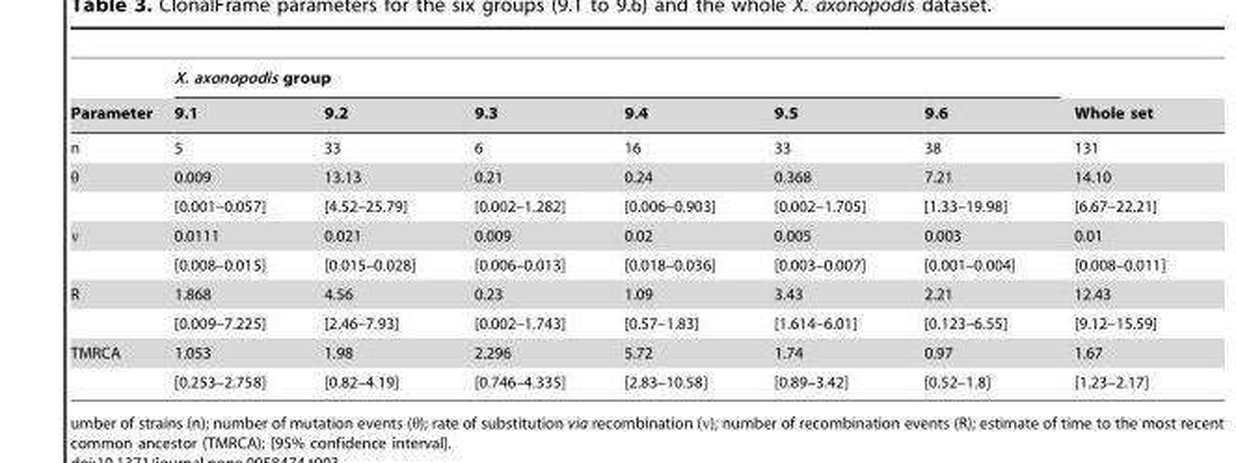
<table><thead><tr><td rowspan="2">Parameter</td><td colspan="6">X. axonopodis group</td><td rowspan="2">Whole set</td></tr><tr><td>9.1</td><td>9.2</td><td>9.3</td><td>9.4</td><td>9.5</td><td>9.6</td></tr></thead><tbody><tr><td>n</td><td>5</td><td>33</td><td>6</td><td>16</td><td>33</td><td>38</td><td>131</td></tr><tr><td rowspan="2">θ</td><td>0.009</td><td>13.13</td><td>0.21</td><td>0.24</td><td>0.368</td><td>7.21</td><td>14.10</td></tr><tr><td>[0.001–0.057]</td><td>[4.52–25.79]</td><td>[0.002–1.282]</td><td>[0.006–0.903]</td><td>[0.002–1.705]</td><td>[1.33–19.98]</td><td>[6.67–22.21]</td></tr><tr><td rowspan="2">ν</td><td>0.0111</td><td>0.021</td><td>0.009</td><td>0.02</td><td>0.005</td><td>0.003</td><td>0.01</td></tr><tr><td>[0.008–0.015]</td><td>[0.015–0.028]</td><td>[0.006–0.013]</td><td>[0.018–0.036]</td><td>[0.003–0.007]</td><td>[0.001–0.004]</td><td>[0.008–0.011]</td></tr><tr><td rowspan="2">R</td><td>1.868</td><td>4.56</td><td>0.23</td><td>1.09</td><td>3.43</td><td>2.21</td><td>12.43</td></tr><tr><td>[0.009–7.225]</td><td>[2.46–7.93]</td><td>[0.002–1.743]</td><td>[0.57–1.83]</td><td>[1.614–6.01]</td><td>[0.123–6.55]</td><td>[9.12–15.59]</td></tr><tr><td rowspan="2">TMRCA</td><td>1.053</td><td>1.98</td><td>2.296</td><td>5.72</td><td>1.74</td><td>0.97</td><td>1.67</td></tr><tr><td>[0.253–2.758]</td><td>[0.82–4.19]</td><td>[0.746–4.335]</td><td>[2.83–10.58]</td><td>[0.89–3.42]</td><td>[0.52–1.8]</td><td>[1.23–2.17]</td></tr></tbody></table>